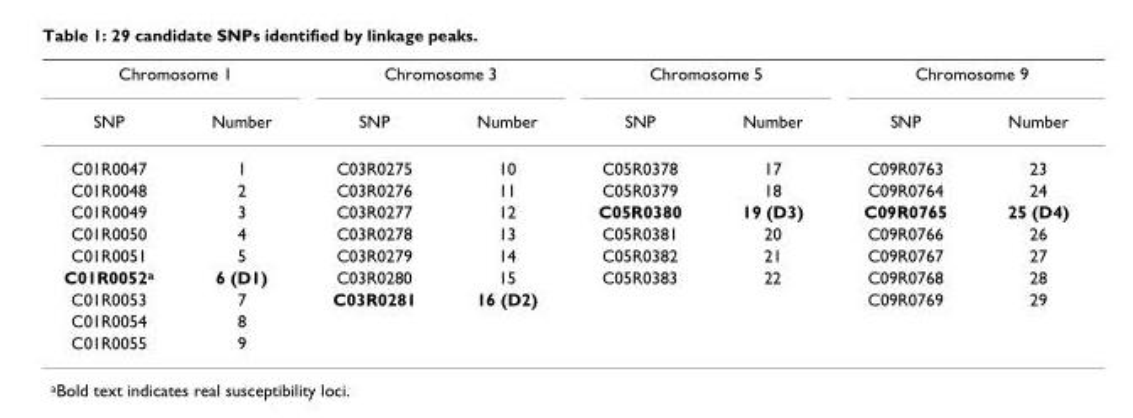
<table><thead><tr><td colspan="2">Chromosome 1</td><td colspan="2">Chromosome 3</td><td colspan="2">Chromosome 5</td><td colspan="2">Chromosome 9</td></tr><tr><td>SNP</td><td>Number</td><td>SNP</td><td>Number</td><td>SNP</td><td>Number</td><td>SNP</td><td>Number</td></tr></thead><tbody><tr><td>C01R0047</td><td>1</td><td>C03R0275</td><td>10</td><td>C05R0378</td><td>17</td><td>C09R0763</td><td>23</td></tr><tr><td>C01R0048</td><td>2</td><td>C03R0276</td><td>11</td><td>C05R0379</td><td>18</td><td>C09R0764</td><td>24</td></tr><tr><td>C01R0049</td><td>3</td><td>C03R0277</td><td>12</td><td>C05R0380</td><td>19 (D3)</td><td>C09R0765</td><td>25 (D4)</td></tr><tr><td>C01R0050</td><td>4</td><td>C03R0278</td><td>13</td><td>C05R0381</td><td>20</td><td>C09R0766</td><td>26</td></tr><tr><td>C01R0051</td><td>5</td><td>C03R0279</td><td>14</td><td>C05R0382</td><td>21</td><td>C09R0767</td><td>27</td></tr><tr><td>C01R0052a</td><td>6 (D1)</td><td>C03R0280</td><td>15</td><td>C05R0383</td><td>22</td><td>C09R0768</td><td>28</td></tr><tr><td>C01R0053</td><td>7</td><td>C03R0281</td><td>16 (D2)</td><td></td><td></td><td>C09R0769</td><td>29</td></tr><tr><td>C01R0054</td><td>8</td><td></td><td></td><td></td><td></td><td></td><td></td></tr><tr><td>C01R0055</td><td>9</td><td></td><td></td><td></td><td></td><td></td><td></td></tr></tbody></table>